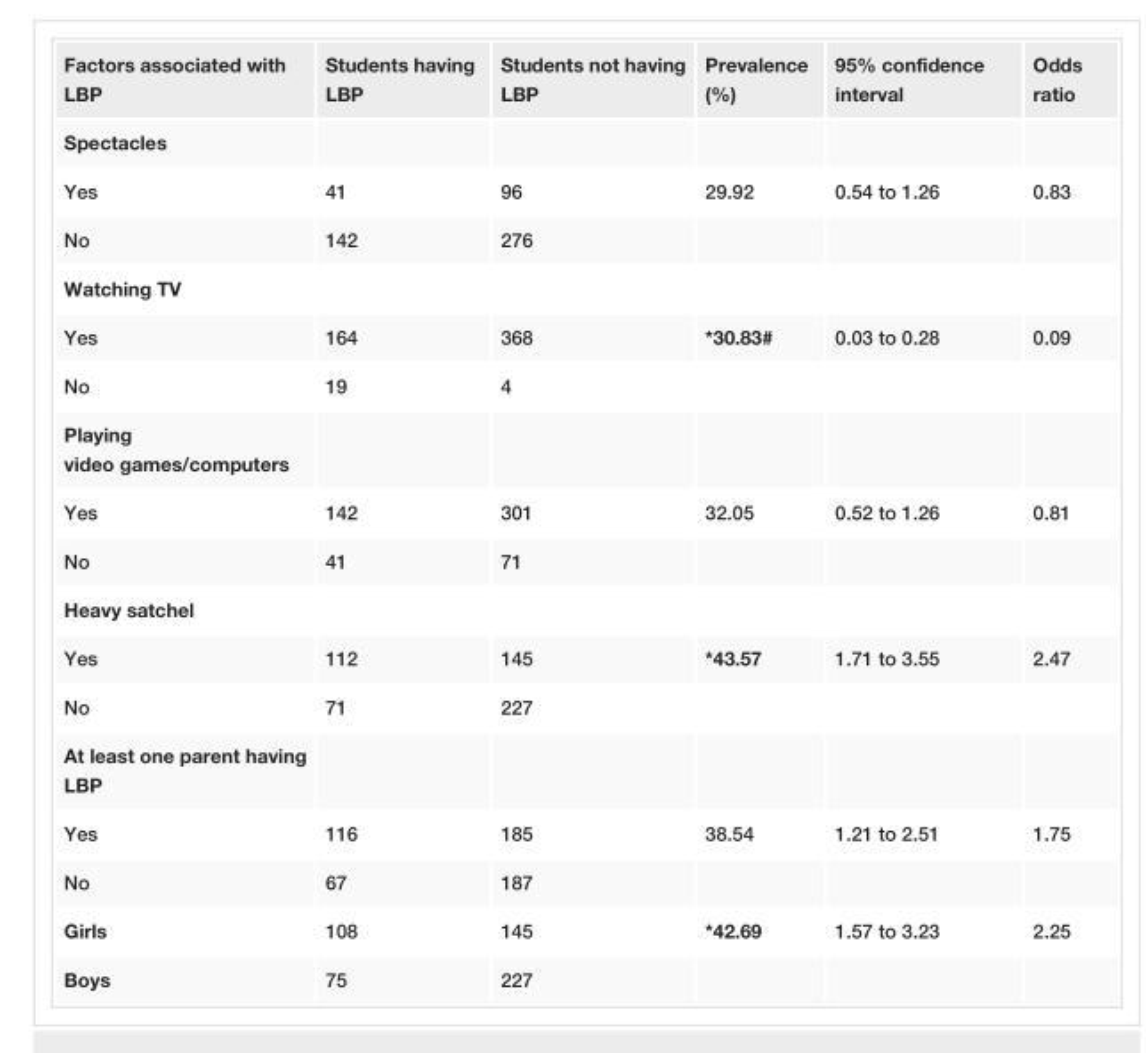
<table><tbody><tr><td>Factors associated with LBP</td><td>Students having LBP</td><td>Students not having LBP</td><td>Prevalence (%)</td><td>95% confidence interval</td><td>Odds ratio</td></tr><tr><td colspan="6">Spectacles</td></tr><tr><td>Yes</td><td>41</td><td>96</td><td>29.92</td><td>0.54 to 1.26</td><td>0.83</td></tr><tr><td>No</td><td>142</td><td>276</td><td></td><td></td><td></td></tr><tr><td colspan="6">Watching TV</td></tr><tr><td>Yes</td><td>164</td><td>368</td><td>*30.83#</td><td>0.03 to 0.28</td><td>0.09</td></tr><tr><td>No</td><td>19</td><td>4</td><td></td><td></td><td></td></tr><tr><td colspan="6">Playing video games/computers</td></tr><tr><td>Yes</td><td>142</td><td>301</td><td>32.05</td><td>0.52 to 1.26</td><td>0.81</td></tr><tr><td>No</td><td>41</td><td>71</td><td></td><td></td><td></td></tr><tr><td colspan="6">Heavy satchel</td></tr><tr><td>Yes</td><td>112</td><td>145</td><td>*43.57</td><td>1.71 to 3.55</td><td>2.47</td></tr><tr><td>No</td><td>71</td><td>227</td><td></td><td></td><td></td></tr><tr><td colspan="6">At least one parent having LBP</td></tr><tr><td>Yes</td><td>116</td><td>185</td><td>38.54</td><td>1.21 to 2.51</td><td>1.75</td></tr><tr><td>No</td><td>67</td><td>187</td><td></td><td></td><td></td></tr><tr><td>Girls</td><td>108</td><td>145</td><td>*42.69</td><td>1.57 to 3.23</td><td>2.25</td></tr><tr><td>Boys</td><td>75</td><td>227</td><td></td><td></td><td></td></tr></tbody></table>